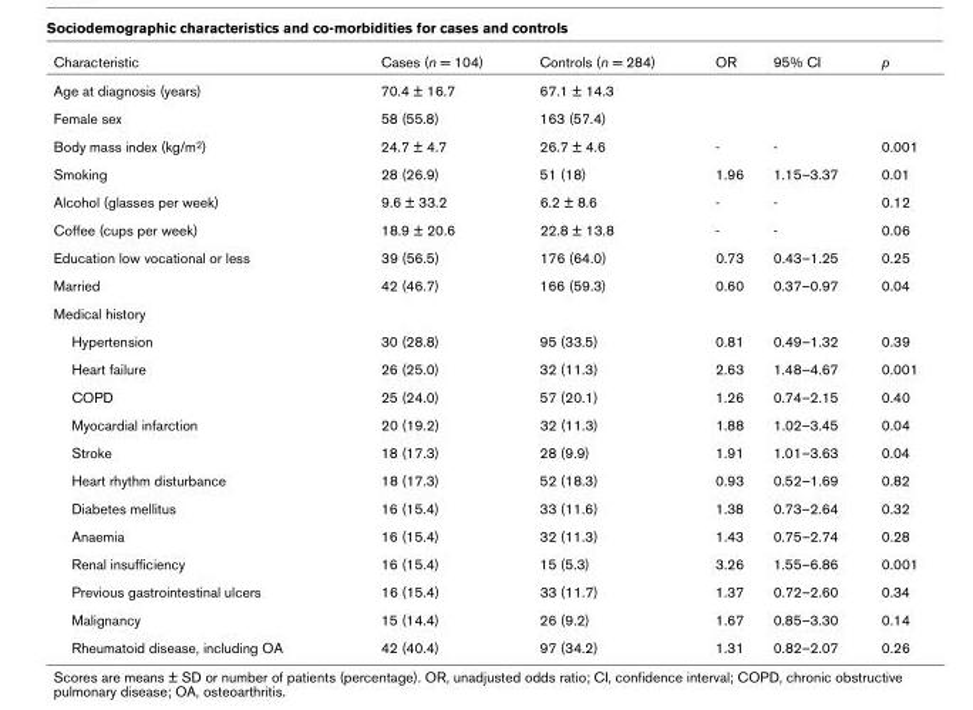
<table><thead><tr><td>Characteristic</td><td>Cases (n = 104)</td><td>Controls (n = 284)</td><td>OR</td><td>95% CI</td><td>p</td></tr></thead><tbody><tr><td>Age at diagnosis (years)</td><td>70.4 ± 16.7</td><td>67.1 ± 14.3</td><td></td><td></td><td></td></tr><tr><td>Female sex</td><td>58 (55.8)</td><td>163 (57.4)</td><td></td><td></td><td></td></tr><tr><td>Body mass index (kg/m<sup>2</sup>)</td><td>24.7 ± 4.7</td><td>26.7 ± 4.6</td><td>-</td><td>-</td><td>0.001</td></tr><tr><td>Smoking</td><td>28 (26.9)</td><td>51 (18)</td><td>1.96</td><td>1.15–3.37</td><td>0.01</td></tr><tr><td>Alcohol (glasses per week)</td><td>9.6 ± 33.2</td><td>6.2 ± 8.6</td><td>-</td><td>-</td><td>0.12</td></tr><tr><td>Coffee (cups per week)</td><td>18.9 ± 20.6</td><td>22.8 ± 13.8</td><td>-</td><td>-</td><td>0.06</td></tr><tr><td>Education low vocational or less</td><td>39 (56.5)</td><td>176 (64.0)</td><td>0.73</td><td>0.43–1.25</td><td>0.25</td></tr><tr><td>Married</td><td>42 (46.7)</td><td>166 (59.3)</td><td>0.60</td><td>0.37–0.97</td><td>0.04</td></tr><tr><td colspan="6">Medical history</td></tr><tr><td>Hypertension</td><td>30 (28.8)</td><td>95 (33.5)</td><td>0.81</td><td>0.49–1.32</td><td>0.39</td></tr><tr><td>Heart failure</td><td>26 (25.0)</td><td>32 (11.3)</td><td>2.63</td><td>1.48–4.67</td><td>0.001</td></tr><tr><td>COPD</td><td>25 (24.0)</td><td>57 (20.1)</td><td>1.26</td><td>0.74–2.15</td><td>0.40</td></tr><tr><td>Myocardial infarction</td><td>20 (19.2)</td><td>32 (11.3)</td><td>1.88</td><td>1.02–3.45</td><td>0.04</td></tr><tr><td>Stroke</td><td>18 (17.3)</td><td>28 (9.9)</td><td>1.91</td><td>1.01–3.63</td><td>0.04</td></tr><tr><td>Heart rhythm disturbance</td><td>18 (17.3)</td><td>52 (18.3)</td><td>0.93</td><td>0.52–1.69</td><td>0.82</td></tr><tr><td>Diabetes mellitus</td><td>16 (15.4)</td><td>33 (11.6)</td><td>1.38</td><td>0.73–2.64</td><td>0.32</td></tr><tr><td>Anaemia</td><td>16 (15.4)</td><td>32 (11.3)</td><td>1.43</td><td>0.75–2.74</td><td>0.28</td></tr><tr><td>Renal insufficiency</td><td>16 (15.4)</td><td>15 (5.3)</td><td>3.26</td><td>1.55–6.86</td><td>0.001</td></tr><tr><td>Previous gastrointestinal ulcers</td><td>16 (15.4)</td><td>33 (11.7)</td><td>1.37</td><td>0.72–2.60</td><td>0.34</td></tr><tr><td>Malignancy</td><td>15 (14.4)</td><td>26 (9.2)</td><td>1.67</td><td>0.85–3.30</td><td>0.14</td></tr><tr><td>Rheumatoid disease, including OA</td><td>42 (40.4)</td><td>97 (34.2)</td><td>1.31</td><td>0.82–2.07</td><td>0.26</td></tr></tbody></table>